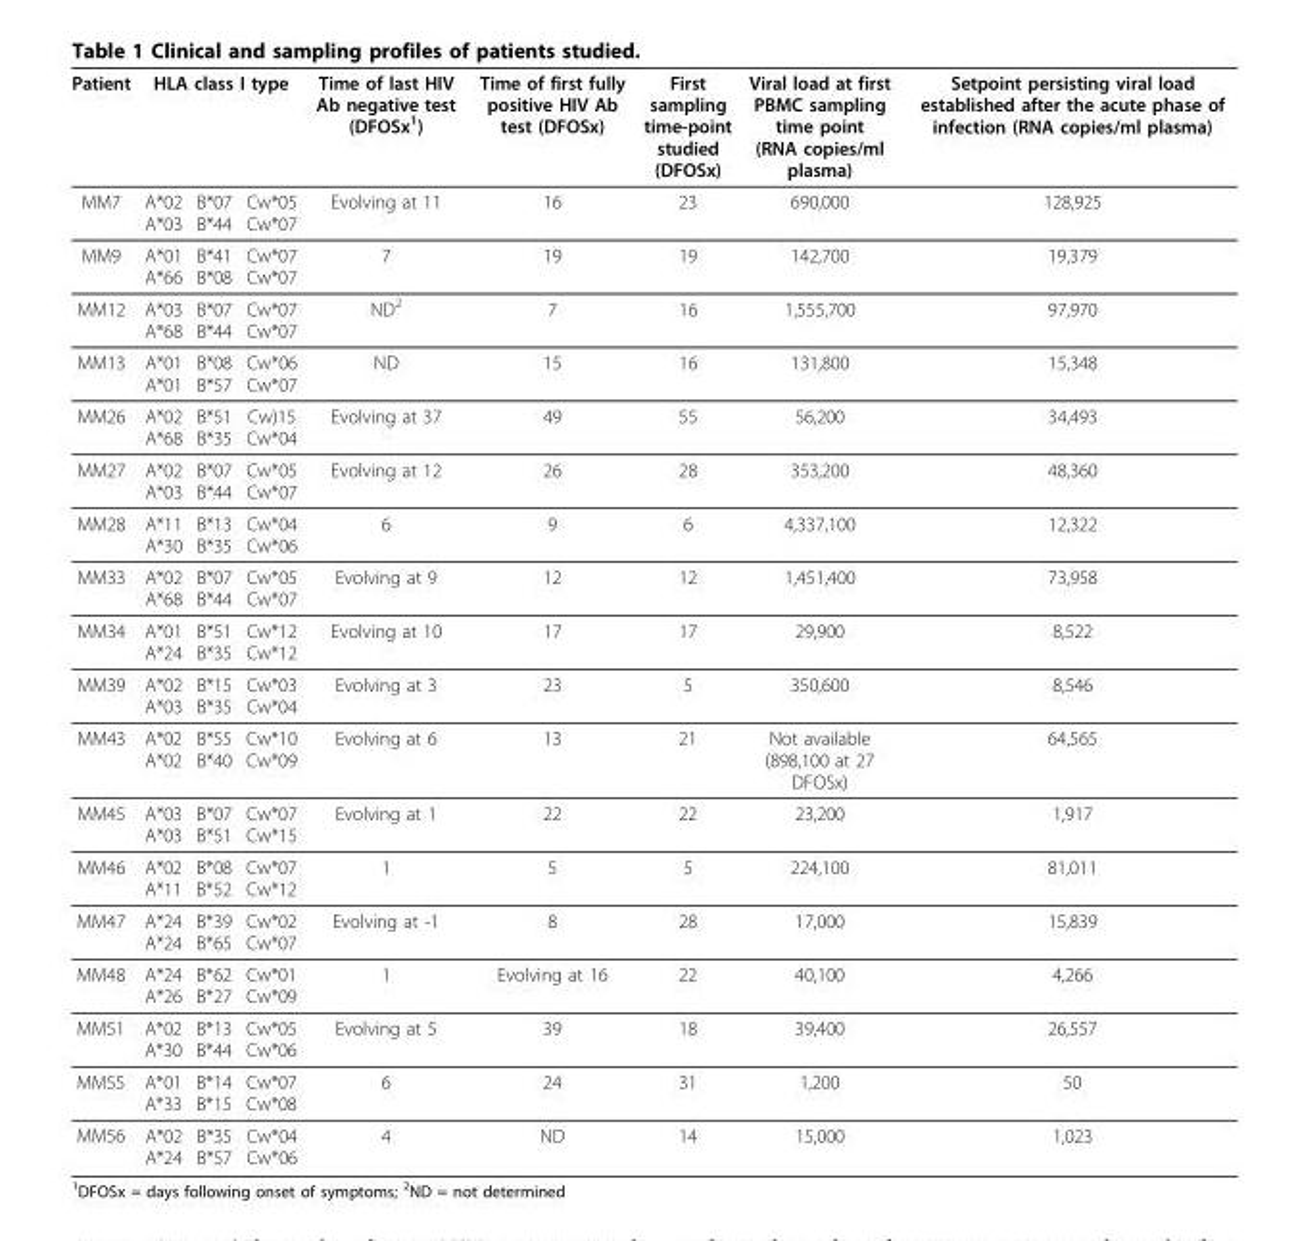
<table><thead><tr><td rowspan="2">Patient MM7</td><td colspan="3">HLA class I type</td><td rowspan="2">Time of last HIV Ab negative test (DFOSx1) Evolving at 11</td><td rowspan="2">Time of first fully positive HIV Ab test (DFOSx) 16</td><td rowspan="2">First sampling time-point studied (DFOSx) 23</td><td rowspan="2">Viral load at first PBMC sampling time point (RNA copies/ml plasma) 690,000</td><td rowspan="2">Setpoint persisting viral load established after the acute phase of infection (RNA copies/ml plasma) 128,925</td></tr><tr><td>A*02 A*03</td><td>B*07 B*44</td><td>Cw*05 Cw*07</td></tr></thead><tbody><tr><td>MM9</td><td>A*01 A*66</td><td>B*41 B*08</td><td>Cw*07 Cw*07</td><td>7</td><td>19</td><td>19</td><td>142,700</td><td>19,379</td></tr><tr><td>MM12</td><td>A*03 A*68</td><td>B*07 B*44</td><td>Cw*07 Cw*07</td><td>ND<sup>2</sup></td><td>7</td><td>16</td><td>1,555,700</td><td>97,970</td></tr><tr><td>MM13</td><td>A*01 A*01</td><td>B*08 B*57</td><td>Cw*06 Cw*07</td><td>ND</td><td>15</td><td>16</td><td>131,800</td><td>15,348</td></tr><tr><td>MM26</td><td>A*02 A*68</td><td>B*51 B*35</td><td>Cw)15 Cw*04</td><td>Evolving at 37</td><td>49</td><td>55</td><td>56,200</td><td>34,493</td></tr><tr><td>MM27</td><td>A*02 A*03</td><td>B*07 B*44</td><td>Cw*05 Cw*07</td><td>Evolving at 12</td><td>26</td><td>28</td><td>353,200</td><td>48,360</td></tr><tr><td>MM28</td><td>A*11 A*30</td><td>B*13 B*35</td><td>Cw*04 Cw*06</td><td>6</td><td>9</td><td>6</td><td>4,337,100</td><td>12,322</td></tr><tr><td>MM33</td><td>A*02 A*68</td><td>B*07 B*44</td><td>Cw*05 Cw*07</td><td>Evolving at 9</td><td>12</td><td>12</td><td>1,451,400</td><td>73,958</td></tr><tr><td>MM34</td><td>A*01 A*24</td><td>B*51 B*35</td><td>Cw*12 Cw*12</td><td>Evolving at 10</td><td>17</td><td>17</td><td>29,900</td><td>8,522</td></tr><tr><td>MM39</td><td>A*02 A*03</td><td>B*15 B*35</td><td>Cw*03 Cw*04</td><td>Evolving at 3</td><td>23</td><td>5</td><td>350,600</td><td>8,546</td></tr><tr><td>MM43</td><td>A*02 A*02</td><td>B*55 B*40</td><td>Cw*10 Cw*09</td><td>Evolving at 6</td><td>13</td><td>21</td><td>Not available (898,100 at 27 DFOSx)</td><td>64,565</td></tr><tr><td>MM45</td><td>A*03 A*03</td><td>B*07 B*51</td><td>Cw*07 Cw*15</td><td>Evolving at 1</td><td>22</td><td>22</td><td>23,200</td><td>1,917</td></tr><tr><td>MM46</td><td>A*02 A*11</td><td>B*08 B*52</td><td>Cw*07 Cw*12</td><td>1</td><td>5</td><td>5</td><td>224,100</td><td>81,011</td></tr><tr><td>MM47</td><td>A*24 A*24</td><td>B*39 B*65</td><td>Cw*02 Cw*07</td><td>Evolving at -1</td><td>8</td><td>28</td><td>17,000</td><td>15,839</td></tr><tr><td>MM48</td><td>A*24 A*26</td><td>B*62 B*27</td><td>Cw*01 Cw*09</td><td>1</td><td>Evolving at 16</td><td>22</td><td>40,100</td><td>4,266</td></tr><tr><td>MM51</td><td>A*02 A*30</td><td>B*13 B*44</td><td>Cw*05 Cw*06</td><td>Evolving at 5</td><td>39</td><td>18</td><td>39,400</td><td>26,557</td></tr><tr><td>MM55</td><td>A*01 A*33</td><td>B*14 B*15</td><td>Cw*07 Cw*08</td><td>6</td><td>24</td><td>31</td><td>1,200</td><td>50</td></tr><tr><td>MM56</td><td>A*02 A*24</td><td>B*35 B*57</td><td>Cw*04 Cw*06</td><td>4</td><td>ND</td><td>14</td><td>15,000</td><td>1,023</td></tr></tbody></table>